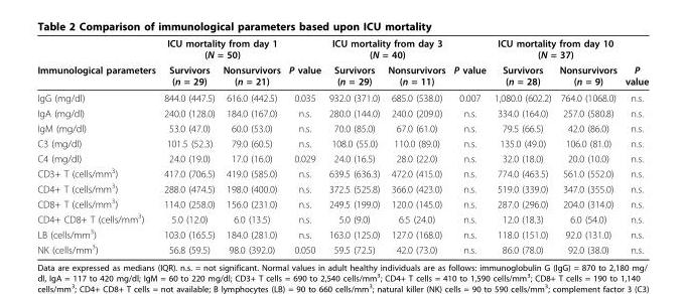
<table><thead><tr><td rowspan="2">Immunological parameters</td><td colspan="2">ICU mortality from day 1 (N = 50)</td><td rowspan="2">P value</td><td colspan="2">ICU mortality from day 3 (N = 40)</td><td rowspan="2">P value</td><td colspan="2">ICU mortality from day 10 (N = 37)</td><td rowspan="2">P value</td></tr><tr><td>Survivors (n = 29)</td><td>Nonsurvivors (n = 21)</td><td>Survivors (n = 29)</td><td>Nonsurvivors (n = 11)</td><td>Survivors (n = 28)</td><td>Nonsurvivors (n = 9)</td></tr></thead><tbody><tr><td>IgG (mg/dl)</td><td>844.0 (447.5)</td><td>616.0 (442.5)</td><td>0.035</td><td>932.0 (371.0)</td><td>685.0 (538.0)</td><td>0.007</td><td>1,080.0 (602.2)</td><td>764.0 (1068.0)</td><td>n.s.</td></tr><tr><td>IgA (mg/dl)</td><td>240.0 (128.0)</td><td>184.0 (167.0)</td><td>n.s.</td><td>280.0 (144.0)</td><td>240.0 (209.0)</td><td>n.s.</td><td>334.0 (164.0)</td><td>257.0 (580.8)</td><td>n.s.</td></tr><tr><td>IgM (mg/dl)</td><td>53.0 (47.0)</td><td>60.0 (53.0)</td><td>n.s.</td><td>70.0 (85.0)</td><td>67.0 (61.0)</td><td>n.s.</td><td>79.5 (66.5)</td><td>42.0 (86.0)</td><td>n.s.</td></tr><tr><td>C3 (mg/dl)</td><td>101.5 (52.3)</td><td>79.0 (60.5)</td><td>n.s.</td><td>108.0 (55.0)</td><td>110.0 (89.0)</td><td>n.s.</td><td>135.0 (49.0)</td><td>106.0 (81.0)</td><td>n.s.</td></tr><tr><td>C4 (mg/dl)</td><td>24.0 (19.0)</td><td>17.0 (16.0)</td><td>0.029</td><td>24.0 (16.5)</td><td>28.0 (22.0)</td><td>n.s.</td><td>32.0 (18.0)</td><td>20.0 (10.0)</td><td>n.s.</td></tr><tr><td>CD3+ T (cells/mm<sup>3</sup>)</td><td>417.0 (706.5)</td><td>419.0 (585.0)</td><td>n.s.</td><td>639.5 (636.3)</td><td>472.0 (415.0)</td><td>n.s.</td><td>774.0 (463.5)</td><td>561.0 (552.0)</td><td>n.s.</td></tr><tr><td>CD4+ T (cells/mm<sup>3</sup>)</td><td>288.0 (474.5)</td><td>198.0 (400.0)</td><td>n.s.</td><td>372.5 (525.8)</td><td>366.0 (423.0)</td><td>n.s.</td><td>519.0 (339.0)</td><td>347.0 (355.0)</td><td>n.s.</td></tr><tr><td>CD8+ T (cells/mm<sup>3</sup>)</td><td>114.0 (258.0)</td><td>156.0 (231.0)</td><td>n.s.</td><td>249.5 (199.0)</td><td>120.0 (145.0)</td><td>n.s.</td><td>287.0 (296.0)</td><td>204.0 (314.0)</td><td>n.s.</td></tr><tr><td>CD4+ CD8+ T (cells/mm<sup>3</sup>)</td><td>5.0 (12.0)</td><td>6.0 (13.5)</td><td>n.s.</td><td>5.0 (9.0)</td><td>6.5 (24.0)</td><td>n.s.</td><td>12.0 (18.3)</td><td>6.0 (54.0)</td><td>n.s.</td></tr><tr><td>LB (cells/mm<sup>3</sup>)</td><td>103.0 (165.5)</td><td>184.0 (281.0)</td><td>n.s.</td><td>163.0 (125.0)</td><td>127.0 (168.0)</td><td>n.s.</td><td>118.0 (151.0)</td><td>92.0 (131.0)</td><td>n.s.</td></tr><tr><td>NK (cells/mm<sup>3</sup>)</td><td>56.8 (59.5)</td><td>98.0 (392.0)</td><td>0.050</td><td>59.5 (72.5)</td><td>42.0 (73.0)</td><td>n.s.</td><td>86.0 (78.0)</td><td>92.0 (38.0)</td><td>n.s.</td></tr></tbody></table>